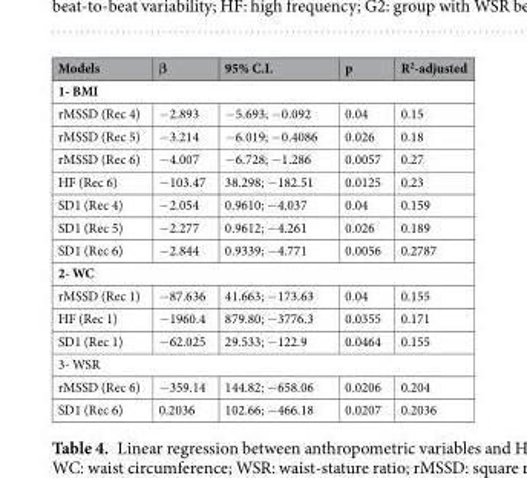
<table><thead><tr><td>Models</td><td>β</td><td>95% C.I.</td><td>p</td><td>R<sup>2</sup>-adjusted</td></tr></thead><tbody><tr><td colspan="5">1- BMI</td></tr><tr><td>rMSSD (Rec 4)</td><td>−2.893</td><td>−5.693; −0.092</td><td>0.04</td><td>0.15</td></tr><tr><td>rMSSD (Rec 5)</td><td>−3.214</td><td>−6.019; −0.4086</td><td>0.026</td><td>0.18</td></tr><tr><td>rMSSD (Rec 6)</td><td>−4.007</td><td>−6.728; −1.286</td><td>0.0057</td><td>0.27</td></tr><tr><td>HF (Rec 6)</td><td>−103.47</td><td>38.298; −182.51</td><td>0.0125</td><td>0.23</td></tr><tr><td>SD1 (Rec 4)</td><td>−2.054</td><td>0.9610; −4.037</td><td>0.04</td><td>0.159</td></tr><tr><td>SD1 (Rec 5)</td><td>−2.277</td><td>0.9612; −4.261</td><td>0.026</td><td>0.189</td></tr><tr><td>SD1 (Rec 6)</td><td>−2.844</td><td>0.9339; −4.771</td><td>0.0056</td><td>0.2787</td></tr><tr><td colspan="5">2- WC</td></tr><tr><td>rMSSD (Rec 1)</td><td>−87.636</td><td>41.663; −173.63</td><td>0.04</td><td>0.155</td></tr><tr><td>HF (Rec 1)</td><td>−1960.4</td><td>879.80; −3776.3</td><td>0.0355</td><td>0.171</td></tr><tr><td>SD1 (Rec 1)</td><td>−62.025</td><td>29.533; −122.9</td><td>0.0464</td><td>0.155</td></tr><tr><td colspan="5">3- WSR</td></tr><tr><td>rMSSD (Rec 6)</td><td>−359.14</td><td>144.82; −658.06</td><td>0.0206</td><td>0.204</td></tr><tr><td>SD1 (Rec 6)</td><td>0.2036</td><td>102.66; −466.18</td><td>0.0207</td><td>0.2036</td></tr></tbody></table>